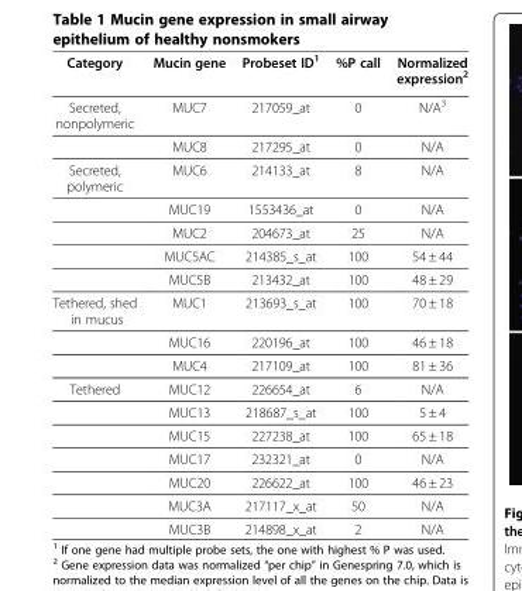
<table><thead><tr><td>Category</td><td>Mucin gene</td><td>Probeset ID<sup>1</sup></td><td>%P call</td><td>Normalized expression<sup>2</sup></td></tr></thead><tbody><tr><td rowspan="2">Secreted, nonpolymeric</td><td>MUC7</td><td>217059_at</td><td>0</td><td>N/A<sup>3</sup></td></tr><tr><td>MUC8</td><td>217295_at</td><td>0</td><td>N/A</td></tr><tr><td rowspan="5">Secreted, polymeric</td><td>MUC6</td><td>214133_at</td><td>8</td><td>N/A</td></tr><tr><td>MUC19</td><td>1553436_at</td><td>0</td><td>N/A</td></tr><tr><td>MUC2</td><td>204673_at</td><td>25</td><td>N/A</td></tr><tr><td>MUC5AC</td><td>214385_s_at</td><td>100</td><td>54 ± 44</td></tr><tr><td>MUC5B</td><td>213432_at</td><td>100</td><td>48 ± 29</td></tr><tr><td rowspan="3">Tethered, shed in mucus</td><td>MUC1</td><td>213693_s_at</td><td>100</td><td>70 ± 18</td></tr><tr><td>MUC16</td><td>220196_at</td><td>100</td><td>46 ± 18</td></tr><tr><td>MUC4</td><td>217109_at</td><td>100</td><td>81 ± 36</td></tr><tr><td rowspan="7">Tethered</td><td>MUC12</td><td>226654_at</td><td>6</td><td>N/A</td></tr><tr><td>MUC13</td><td>218687_s_at</td><td>100</td><td>5 ± 4</td></tr><tr><td>MUC15</td><td>227238_at</td><td>100</td><td>65 ± 18</td></tr><tr><td>MUC17</td><td>232321_at</td><td>0</td><td>N/A</td></tr><tr><td>MUC20</td><td>226622_at</td><td>100</td><td>46 ± 23</td></tr><tr><td>MUC3A</td><td>217117_x_at</td><td>50</td><td>N/A</td></tr><tr><td>MUC3B</td><td>214898_x_at</td><td>2</td><td>N/A</td></tr></tbody></table>